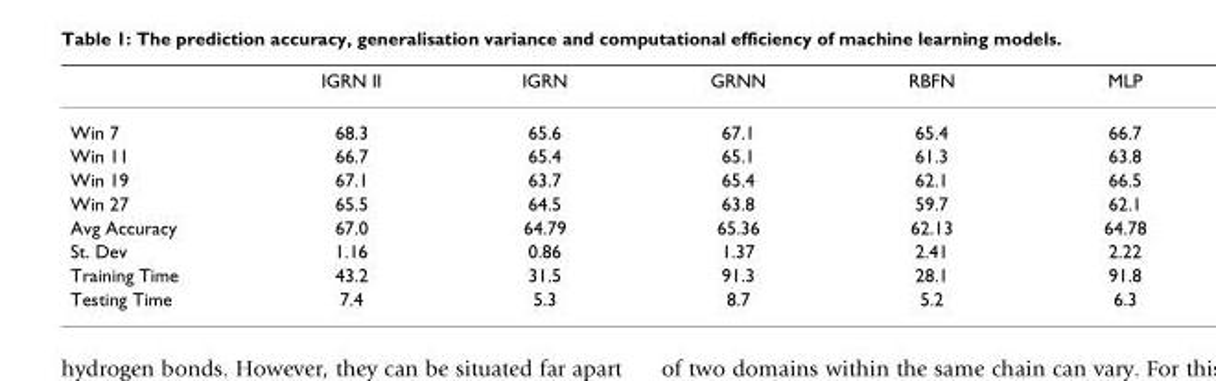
<table><thead><tr><td></td><td>IGRN II</td><td>IGRN</td><td>GRNN</td><td>RBFN</td><td>MLP</td></tr></thead><tbody><tr><td>Win 7</td><td>68.3</td><td>65.6</td><td>67.1</td><td>65.4</td><td>66.7</td></tr><tr><td>Win 11</td><td>66.7</td><td>65.4</td><td>65.1</td><td>61.3</td><td>63.8</td></tr><tr><td>Win 19</td><td>67.1</td><td>63.7</td><td>65.4</td><td>62.1</td><td>66.5</td></tr><tr><td>Win 27</td><td>65.5</td><td>64.5</td><td>63.8</td><td>59.7</td><td>62.1</td></tr><tr><td>Avg Accuracy</td><td>67.0</td><td>64.79</td><td>65.36</td><td>62.13</td><td>64.78</td></tr><tr><td>St. Dev</td><td>1.16</td><td>0.86</td><td>1.37</td><td>2.41</td><td>2.22</td></tr><tr><td>Training Time</td><td>43.2</td><td>31.5</td><td>91.3</td><td>28.1</td><td>91.8</td></tr><tr><td>Testing Time</td><td>7.4</td><td>5.3</td><td>8.7</td><td>5.2</td><td>6.3</td></tr></tbody></table>